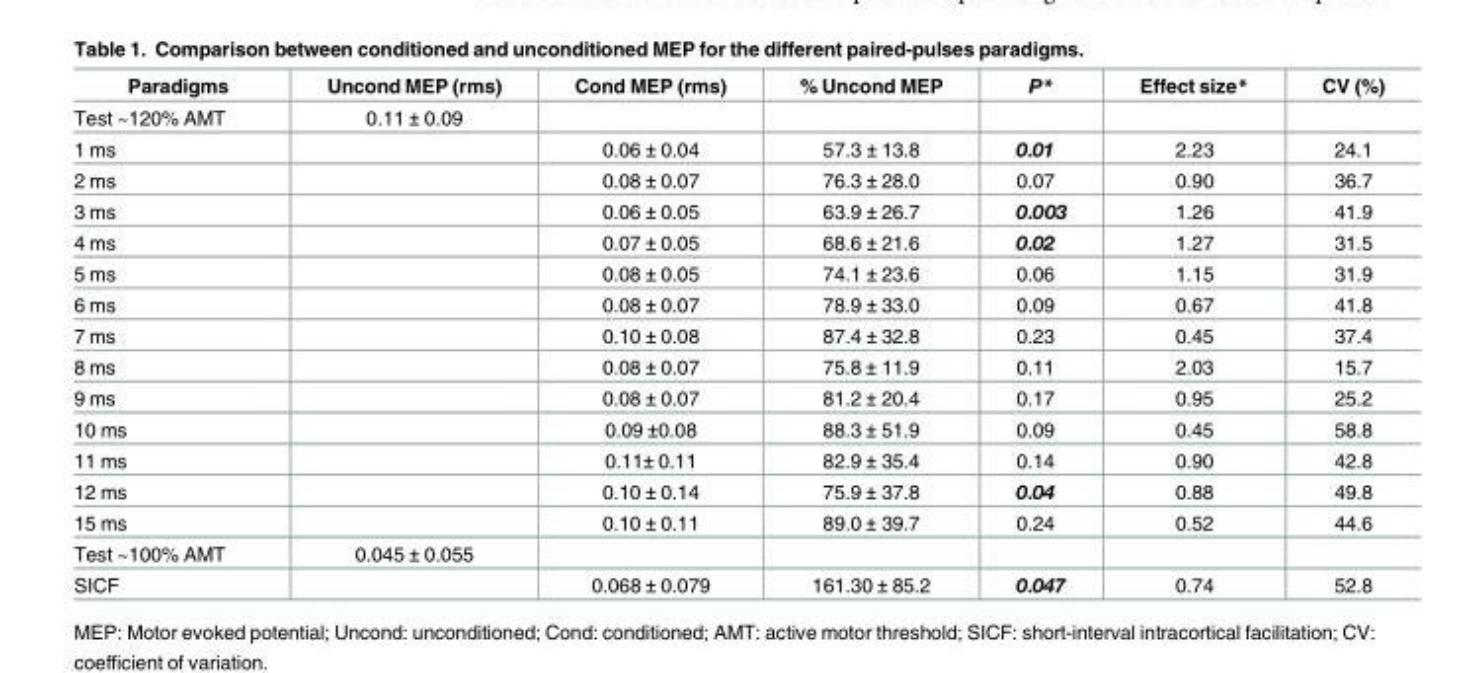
<table><thead><tr><td>Paradigms</td><td>Uncond MEP (rms)</td><td>Cond MEP (rms)</td><td>% Uncond MEP</td><td>P*</td><td>Effect size*</td><td>CV (%)</td></tr></thead><tbody><tr><td>Test ~120% AMT</td><td>0.11 ± 0.09</td><td></td><td></td><td></td><td></td><td></td></tr><tr><td>1 ms</td><td></td><td>0.06 ± 0.04</td><td>57.3 ± 13.8</td><td>0.01</td><td>2.23</td><td>24.1</td></tr><tr><td>2 ms</td><td></td><td>0.08 ± 0.07</td><td>76.3 ± 28.0</td><td>0.07</td><td>0.90</td><td>36.7</td></tr><tr><td>3 ms</td><td></td><td>0.06 ± 0.05</td><td>63.9 ± 26.7</td><td>0.003</td><td>1.26</td><td>41.9</td></tr><tr><td>4 ms</td><td></td><td>0.07 ± 0.05</td><td>68.6 ± 21.6</td><td>0.02</td><td>1.27</td><td>31.5</td></tr><tr><td>5 ms</td><td></td><td>0.08 ± 0.05</td><td>74.1 ± 23.6</td><td>0.06</td><td>1.15</td><td>31.9</td></tr><tr><td>6 ms</td><td></td><td>0.08 ± 0.07</td><td>78.9 ± 33.0</td><td>0.09</td><td>0.67</td><td>41.8</td></tr><tr><td>7 ms</td><td></td><td>0.10 ± 0.08</td><td>87.4 ± 32.8</td><td>0.23</td><td>0.45</td><td>37.4</td></tr><tr><td>8 ms</td><td></td><td>0.08 ± 0.07</td><td>75.8 ± 11.9</td><td>0.11</td><td>2.03</td><td>15.7</td></tr><tr><td>9 ms</td><td></td><td>0.08 ± 0.07</td><td>81.2 ± 20.4</td><td>0.17</td><td>0.95</td><td>25.2</td></tr><tr><td>10 ms</td><td></td><td>0.09 ±0.08</td><td>88.3 ± 51.9</td><td>0.09</td><td>0.45</td><td>58.8</td></tr><tr><td>11 ms</td><td></td><td>0.11± 0.11</td><td>82.9 ± 35.4</td><td>0.14</td><td>0.90</td><td>42.8</td></tr><tr><td>12 ms</td><td></td><td>0.10 ± 0.14</td><td>75.9 ± 37.8</td><td>0.04</td><td>0.88</td><td>49.8</td></tr><tr><td>15 ms</td><td></td><td>0.10 ± 0.11</td><td>89.0 ± 39.7</td><td>0.24</td><td>0.52</td><td>44.6</td></tr><tr><td>Test ~100% AMT</td><td>0.045 ± 0.055</td><td></td><td></td><td></td><td></td><td></td></tr><tr><td>SICF</td><td></td><td>0.068 ± 0.079</td><td>161.30 ± 85.2</td><td>0.047</td><td>0.74</td><td>52.8</td></tr></tbody></table>